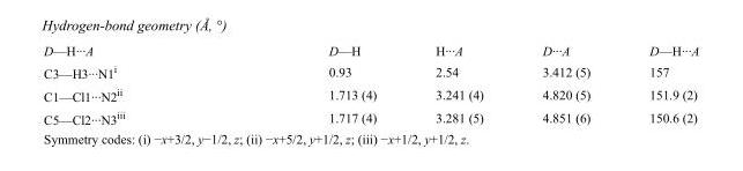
<table><tbody><tr><td>D—H···A</td><td>D—H</td><td>H···A</td><td>D···A</td><td>D—H···A</td></tr><tr><td>C3—H3···N1<sup>i</sup></td><td>0.93</td><td>2.54</td><td>3.412 (5)</td><td>157</td></tr><tr><td>C1—Cl1···N2<sup>ii</sup></td><td>1.713 (4)</td><td>3.241 (4)</td><td>4.820 (5)</td><td>151.9 (2)</td></tr><tr><td>C5—Cl2···N3<sup>iii</sup></td><td>1.717 (4)</td><td>3.281 (5)</td><td>4.851 (6)</td><td>150.6 (2)</td></tr></tbody></table>